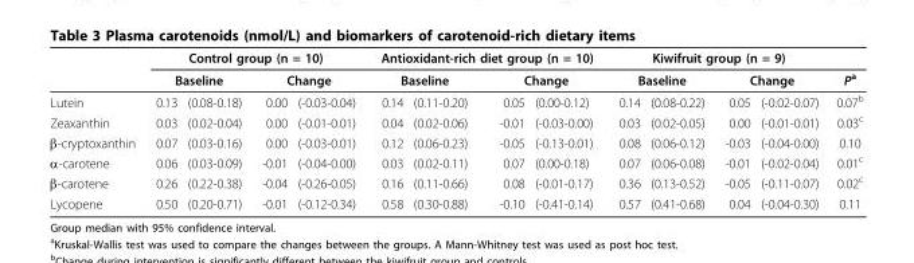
<table><thead><tr><td rowspan="3">Lutein</td><td colspan="4">Control group (n = 10)</td><td colspan="4">Antioxidant-rich diet group (n = 10)</td><td colspan="4">Kiwifruit group (n = 9)</td><td rowspan="3">P<sup>a</sup> 0.07<sup>b</sup></td></tr><tr><td colspan="2">Baseline</td><td colspan="2">Change</td><td colspan="2">Baseline</td><td colspan="2">Change</td><td colspan="2">Baseline</td><td colspan="2">Change</td></tr><tr><td>0.13</td><td>(0.08-0.18)</td><td>0.00</td><td>(-0.03-0.04)</td><td>0.14</td><td>(0.11-0.20)</td><td>0.05</td><td>(0.00-0.12)</td><td>0.14</td><td>(0.08-0.22)</td><td>0.05</td><td>(-0.02-0.07)</td></tr></thead><tbody><tr><td>Zeaxanthin</td><td>0.03</td><td>(0.02-0.04)</td><td>0.00</td><td>(-0.01-0.01)</td><td>0.04</td><td>(0.02-0.06)</td><td>-0.01</td><td>(-0.03-0.00)</td><td>0.03</td><td>(0.02-0.05)</td><td>0.00</td><td>(-0.01-0.01)</td><td>0.03<sup>c</sup></td></tr><tr><td>β-cryptoxanthin</td><td>0.07</td><td>(0.03-0.16)</td><td>0.00</td><td>(-0.03-0.01)</td><td>0.12</td><td>(0.06-0.23)</td><td>-0.05</td><td>(-0.13-0.01)</td><td>0.08</td><td>(0.06-0.12)</td><td>-0.03</td><td>(-0.04-0.00)</td><td>0.10</td></tr><tr><td>α-carotene</td><td>0.06</td><td>(0.03-0.09)</td><td>-0.01</td><td>(-0.04-0.00)</td><td>0.03</td><td>(0.02-0.11)</td><td>0.07</td><td>(0.00-0.18)</td><td>0.07</td><td>(0.06-0.08)</td><td>-0.01</td><td>(-0.02-0.04)</td><td>0.01<sup>c</sup></td></tr><tr><td>β-carotene</td><td>0.26</td><td>(0.22-0.38)</td><td>-0.04</td><td>(-0.26-0.05)</td><td>0.16</td><td>(0.11-0.66)</td><td>0.08</td><td>(-0.01-0.17)</td><td>0.36</td><td>(0.13-0.52)</td><td>-0.05</td><td>(-0.11-0.07)</td><td>0.02<sup>c</sup></td></tr><tr><td>Lycopene</td><td>0.50</td><td>(0.20-0.71)</td><td>-0.01</td><td>(-0.12-0.34)</td><td>0.58</td><td>(0.30-0.88)</td><td>-0.10</td><td>(-0.41-0.14)</td><td>0.57</td><td>(0.41-0.68)</td><td>0.04</td><td>(-0.04-0.30)</td><td>0.11</td></tr></tbody></table>